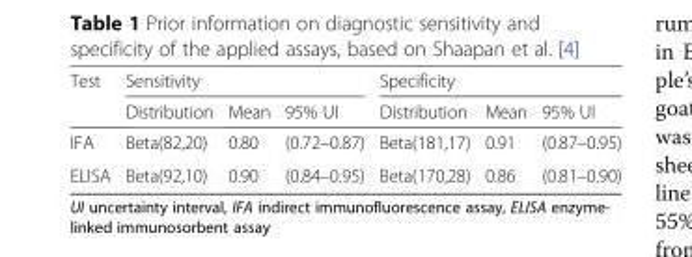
<table><thead><tr><td rowspan="2">Test</td><td colspan="3">Sensitivity</td><td colspan="3">Specificity</td></tr><tr><td>Distribution</td><td>Mean</td><td>95% UI</td><td>Distribution</td><td>Mean</td><td>95% UI</td></tr></thead><tbody><tr><td>IFA</td><td>Beta(82,20)</td><td>0.80</td><td>(0.72–0.87)</td><td>Beta(181,17)</td><td>0.91</td><td>(0.87–0.95)</td></tr><tr><td>ELISA</td><td>Beta(92,10)</td><td>0.90</td><td>(0.84–0.95)</td><td>Beta(170,28)</td><td>0.86</td><td>(0.81–0.90)</td></tr></tbody></table>